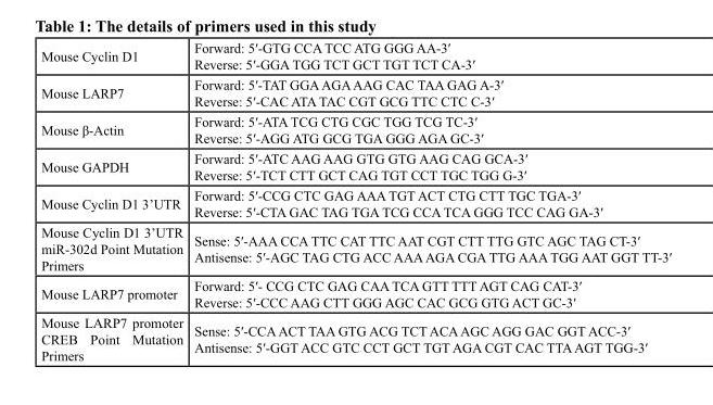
<table><tbody><tr><td>Mouse Cyclin D1</td><td>Forward: 5′-GTG CCA TCC ATG GGG AA-3′ Reverse: 5′-GGA TGG TCT GCT TGT TCT CA-3′</td></tr><tr><td>Mouse LARP7</td><td>Forward: 5′-TAT GGA AGA AAG CAC TAA GAG A-3′ Reverse: 5′-CAC ATA TAC CGT GCG TTC CTC C-3′</td></tr><tr><td>Mouse β-Actin</td><td>Forward: 5′-ATA TCG CTG CGC TGG TCG TC-3′ Reverse: 5′-AGG ATG GCG TGA GGG AGA GC-3′</td></tr><tr><td>Mouse GAPDH</td><td>Forward: 5′-ATC AAG AAG GTG GTG AAG CAG GCA-3′ Reverse: 5′-TCT CTT GCT CAG TGT CCT TGC TGG G-3′</td></tr><tr><td>Mouse Cyclin D1 3’UTR</td><td>Forward: 5′-CCG CTC GAG AAA TGT ACT CTG CTT TGC TGA-3′ Reverse: 5′-CTA GAC TAG TGA TCG CCA TCA GGG TCC CAG GA-3′</td></tr><tr><td>Mouse Cyclin D1 3’UTR miR-302d Point Mutation Primers</td><td>Sense: 5′-AAA CCA TTC CAT TTC AAT CGT CTT TTG GTC AGC TAG CT-3′ Antisense: 5′-AGC TAG CTG ACC AAA AGA CGA TTG AAA TGG AAT GGT TT-3′</td></tr><tr><td>Mouse LARP7 promoter</td><td>Forward: 5′- CCG CTC GAG CAA TCA GTT TTT AGT CAG CAT-3′ Reverse: 5′-CCC AAG CTT GGG AGC CAC GCG GTG ACT GC-3′</td></tr><tr><td>Mouse LARP7 promoter CREB Point Mutation Primers</td><td>Sense: 5′-CCA ACT TAA GTG ACG TCT ACA AGC AGG GAC GGT ACC-3′ Antisense: 5′-GGT ACC GTC CCT GCT TGT AGA CGT CAC TTA AGT TGG-3′</td></tr></tbody></table>